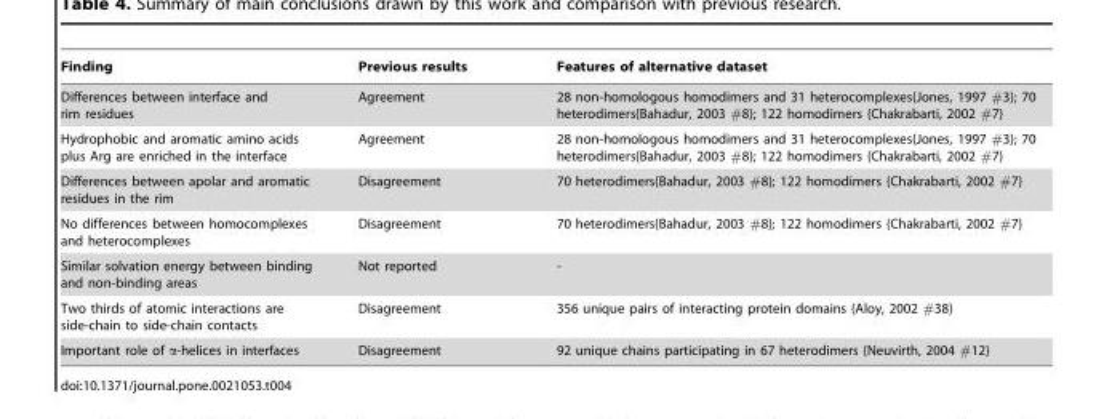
<table><thead><tr><td>Finding</td><td>Previous results</td><td>Features of alternative dataset</td></tr></thead><tbody><tr><td>Differences between interface and rim residues</td><td>Agreement</td><td>28 non-homologous homodimers and 31 heterocomplexes{Jones, 1997 #3}; 70 heterodimers{Bahadur, 2003 #8}; 122 homodimers {Chakrabarti, 2002 #7}</td></tr><tr><td>Hydrophobic and aromatic amino acids plus Arg are enriched in the interface</td><td>Agreement</td><td>28 non-homologous homodimers and 31 heterocomplexes{Jones, 1997 #3}; 70 heterodimers{Bahadur, 2003 #8}; 122 homodimers {Chakrabarti, 2002 #7}</td></tr><tr><td>Differences between apolar and aromatic residues in the rim</td><td>Disagreement</td><td>70 heterodimers{Bahadur, 2003 #8}; 122 homodimers {Chakrabarti, 2002 #7}</td></tr><tr><td>No differences between homocomplexes and heterocomplexes</td><td>Disagreement</td><td>70 heterodimers{Bahadur, 2003 #8}; 122 homodimers {Chakrabarti, 2002 #7}</td></tr><tr><td>Similar solvation energy between binding and non-binding areas</td><td>Not reported</td><td>-</td></tr><tr><td>Two thirds of atomic interactions are side-chain to side-chain contacts</td><td>Disagreement</td><td>356 unique pairs of interacting protein domains {Aloy, 2002 #38}</td></tr><tr><td>Important role of α-helices in interfaces</td><td>Disagreement</td><td>92 unique chains participating in 67 heterodimers {Neuvirth, 2004 #12}</td></tr></tbody></table>